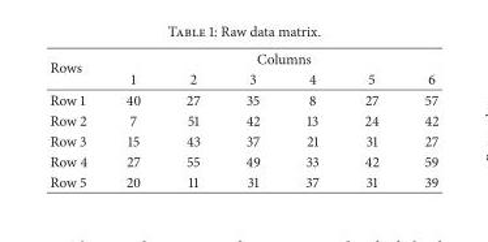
<table><thead><tr><td rowspan="2">Rows</td><td colspan="6">Columns</td></tr><tr><td>1</td><td>2</td><td>3</td><td>4</td><td>5</td><td>6</td></tr></thead><tbody><tr><td>Row 1</td><td>40</td><td>27</td><td>35</td><td>8</td><td>27</td><td>57</td></tr><tr><td>Row 2</td><td>7</td><td>51</td><td>42</td><td>13</td><td>24</td><td>42</td></tr><tr><td>Row 3</td><td>15</td><td>43</td><td>37</td><td>21</td><td>31</td><td>27</td></tr><tr><td>Row 4</td><td>27</td><td>55</td><td>49</td><td>33</td><td>42</td><td>59</td></tr><tr><td>Row 5</td><td>20</td><td>11</td><td>31</td><td>37</td><td>31</td><td>39</td></tr></tbody></table>